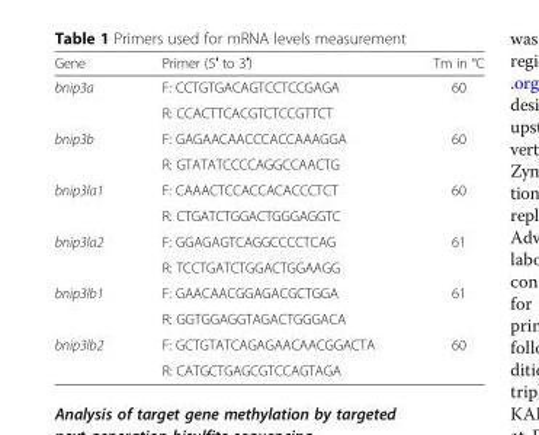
<table><thead><tr><td>Gene</td><td>Primer (5′ to 3′)</td><td>Tm in °C</td></tr></thead><tbody><tr><td rowspan="2">bnip3a</td><td>F: CCTGTGACAGTCCTCCGAGA</td><td rowspan="2">60</td></tr><tr><td>R: CCACTTCACGTCTCCGTTCT</td></tr><tr><td rowspan="2">bnip3b</td><td>F: GAGAACAACCCACCAAAGGA</td><td rowspan="2">60</td></tr><tr><td>R: GTATATCCCCAGGCCAACTG</td></tr><tr><td rowspan="2">bnip3la1</td><td>F: CAAACTCCACCACACCCTCT</td><td rowspan="2">60</td></tr><tr><td>R: CTGATCTGGACTGGGAGGTC</td></tr><tr><td rowspan="2">bnip3la2</td><td>F: GGAGAGTCAGGCCCCTCAG</td><td rowspan="2">61</td></tr><tr><td>R: TCCTGATCTGGACTGGAAGG</td></tr><tr><td rowspan="2">bnip3lb1</td><td>F: GAACAACGGAGACGCTGGA</td><td rowspan="2">61</td></tr><tr><td>R: GGTGGAGGTAGACTGGGACA</td></tr><tr><td rowspan="2">bnip3lb2</td><td>F: GCTGTATCAGAGAACAACGGACTA</td><td rowspan="2">60</td></tr><tr><td>R: CATGCTGAGCGTCCAGTAGA</td></tr></tbody></table>